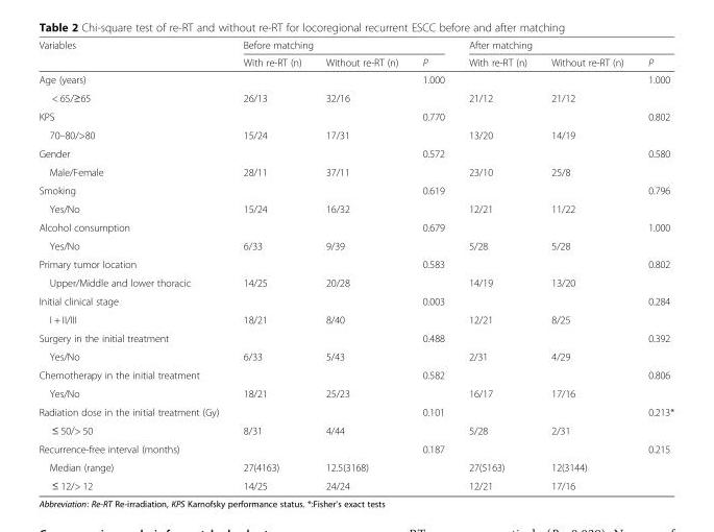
<table><thead><tr><td rowspan="2">Variables</td><td colspan="3">Before matching</td><td colspan="3">After matching</td></tr><tr><td>With re-RT (n)</td><td>Without re-RT (n)</td><td>P</td><td>With re-RT (n)</td><td>Without re-RT (n)</td><td>P</td></tr></thead><tbody><tr><td>Age (years)</td><td></td><td></td><td>1.000</td><td></td><td></td><td>1.000</td></tr><tr><td>&lt; 65/≥65</td><td>26/13</td><td>32/16</td><td></td><td>21/12</td><td>21/12</td><td></td></tr><tr><td>KPS</td><td></td><td></td><td>0.770</td><td></td><td></td><td>0.802</td></tr><tr><td>70–80/&gt;80</td><td>15/24</td><td>17/31</td><td></td><td>13/20</td><td>14/19</td><td></td></tr><tr><td>Gender</td><td></td><td></td><td>0.572</td><td></td><td></td><td>0.580</td></tr><tr><td>Male/Female</td><td>28/11</td><td>37/11</td><td></td><td>23/10</td><td>25/8</td><td></td></tr><tr><td>Smoking</td><td></td><td></td><td>0.619</td><td></td><td></td><td>0.796</td></tr><tr><td>Yes/No</td><td>15/24</td><td>16/32</td><td></td><td>12/21</td><td>11/22</td><td></td></tr><tr><td>Alcohol consumption</td><td></td><td></td><td>0.679</td><td></td><td></td><td>1.000</td></tr><tr><td>Yes/No</td><td>6/33</td><td>9/39</td><td></td><td>5/28</td><td>5/28</td><td></td></tr><tr><td>Primary tumor location</td><td></td><td></td><td>0.583</td><td></td><td></td><td>0.802</td></tr><tr><td>Upper/Middle and lower thoracic</td><td>14/25</td><td>20/28</td><td></td><td>14/19</td><td>13/20</td><td></td></tr><tr><td>Initial clinical stage</td><td></td><td></td><td>0.003</td><td></td><td></td><td>0.284</td></tr><tr><td>I + II/III</td><td>18/21</td><td>8/40</td><td></td><td>12/21</td><td>8/25</td><td></td></tr><tr><td>Surgery in the initial treatment</td><td></td><td></td><td>0.488</td><td></td><td></td><td>0.392</td></tr><tr><td>Yes/No</td><td>6/33</td><td>5/43</td><td></td><td>2/31</td><td>4/29</td><td></td></tr><tr><td>Chemotherapy in the initial treatment</td><td></td><td></td><td>0.582</td><td></td><td></td><td>0.806</td></tr><tr><td>Yes/No</td><td>18/21</td><td>25/23</td><td></td><td>16/17</td><td>17/16</td><td></td></tr><tr><td>Radiation dose in the initial treatment (Gy)</td><td></td><td></td><td>0.101</td><td></td><td></td><td>0.213*</td></tr><tr><td>≤ 50/&gt; 50</td><td>8/31</td><td>4/44</td><td></td><td>5/28</td><td>2/31</td><td></td></tr><tr><td>Recurrence-free interval (months)</td><td></td><td></td><td>0.187</td><td></td><td></td><td>0.215</td></tr><tr><td>Median (range)</td><td>27(4163)</td><td>12.5(3168)</td><td></td><td>27(5163)</td><td>12(3144)</td><td></td></tr><tr><td>≤ 12/&gt; 12</td><td>14/25</td><td>24/24</td><td></td><td>12/21</td><td>17/16</td><td></td></tr></tbody></table>